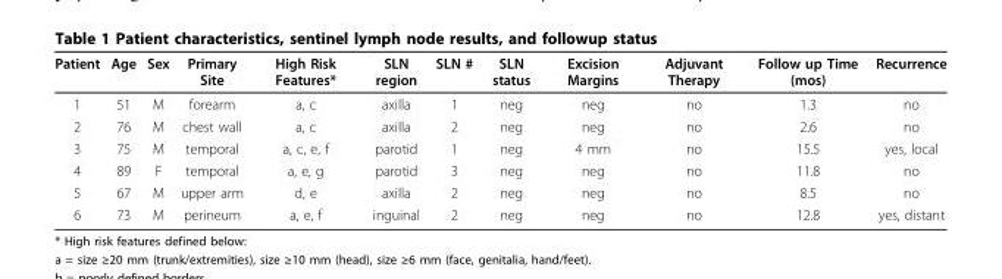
<table><thead><tr><td>Patient</td><td>Age</td><td>Sex</td><td>Primary Site</td><td>High Risk Features*</td><td>SLN region</td><td>SLN #</td><td>SLN status</td><td>Excision Margins</td><td>Adjuvant Therapy</td><td>Follow up Time (mos)</td><td>Recurrence</td></tr></thead><tbody><tr><td>1</td><td>51</td><td>M</td><td>forearm</td><td>a, c</td><td>axilla</td><td>1</td><td>neg</td><td>neg</td><td>no</td><td>1.3</td><td>no</td></tr><tr><td>2</td><td>76</td><td>M</td><td>chest wall</td><td>a, c</td><td>axilla</td><td>2</td><td>neg</td><td>neg</td><td>no</td><td>2.6</td><td>no</td></tr><tr><td>3</td><td>75</td><td>M</td><td>temporal</td><td>a, c, e, f</td><td>parotid</td><td>1</td><td>neg</td><td>4 mm</td><td>no</td><td>15.5</td><td>yes, local</td></tr><tr><td>4</td><td>89</td><td>F</td><td>temporal</td><td>a, e, g</td><td>parotid</td><td>3</td><td>neg</td><td>neg</td><td>no</td><td>11.8</td><td>no</td></tr><tr><td>5</td><td>67</td><td>M</td><td>upper arm</td><td>d, e</td><td>axilla</td><td>2</td><td>neg</td><td>neg</td><td>no</td><td>8.5</td><td>no</td></tr><tr><td>6</td><td>73</td><td>M</td><td>perineum</td><td>a, e, f</td><td>inguinal</td><td>2</td><td>neg</td><td>neg</td><td>no</td><td>12.8</td><td>yes, distant</td></tr></tbody></table>